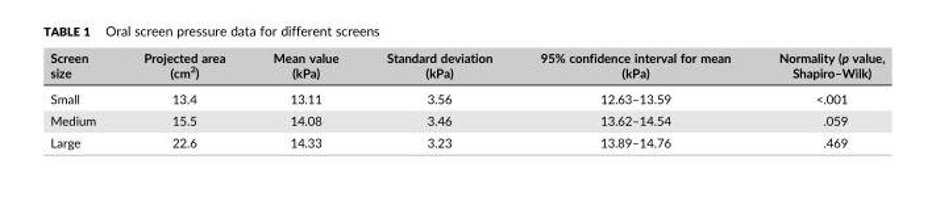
<table><thead><tr><td>Screen size</td><td>Projected area (cm<sup>2</sup>)</td><td>Mean value (kPa)</td><td>Standard deviation (kPa)</td><td>95% confidence interval for mean (kPa)</td><td>Normality (p value, Shapiro–Wilk)</td></tr></thead><tbody><tr><td>Small</td><td>13.4</td><td>13.11</td><td>3.56</td><td>12.63–13.59</td><td>&lt;.001</td></tr><tr><td>Medium</td><td>15.5</td><td>14.08</td><td>3.46</td><td>13.62–14.54</td><td>.059</td></tr><tr><td>Large</td><td>22.6</td><td>14.33</td><td>3.23</td><td>13.89–14.76</td><td>.469</td></tr></tbody></table>